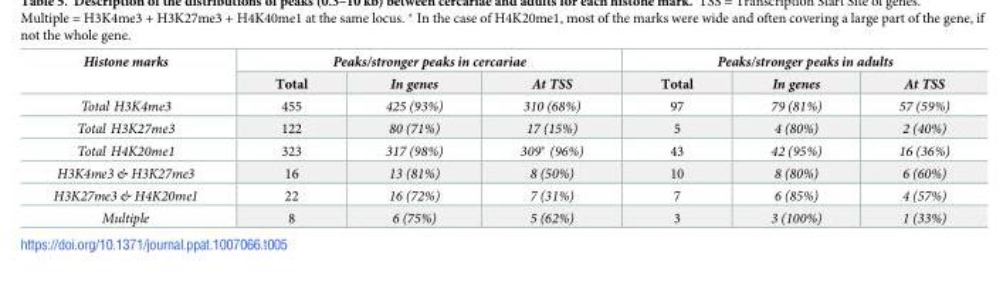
<table><thead><tr><td rowspan="2">Histone marks</td><td colspan="3">Peaks/stronger peaks in cercariae</td><td colspan="3">Peaks/stronger peaks in adults</td></tr><tr><td>Total</td><td>In genes</td><td>At TSS</td><td>Total</td><td>In genes</td><td>At TSS</td></tr></thead><tbody><tr><td>Total H3K4me3</td><td>455</td><td>425 (93%)</td><td>310 (68%)</td><td>97</td><td>79 (81%)</td><td>57 (59%)</td></tr><tr><td>Total H3K27me3</td><td>122</td><td>80 (71%)</td><td>17 (15%)</td><td>5</td><td>4 (80%)</td><td>2 (40%)</td></tr><tr><td>Total H4K20me1</td><td>323</td><td>317 (98%)</td><td>309* (96%)</td><td>43</td><td>42 (95%)</td><td>16 (36%)</td></tr><tr><td>H3K4me3 &amp; H3K27me3</td><td>16</td><td>13 (81%)</td><td>8 (50%)</td><td>10</td><td>8 (80%)</td><td>6 (60%)</td></tr><tr><td>H3K27me3 &amp; H4K20me1</td><td>22</td><td>16 (72%)</td><td>7 (31%)</td><td>7</td><td>6 (85%)</td><td>4 (57%)</td></tr><tr><td>Multiple</td><td>8</td><td>6 (75%)</td><td>5 (62%)</td><td>3</td><td>3 (100%)</td><td>1 (33%)</td></tr></tbody></table>